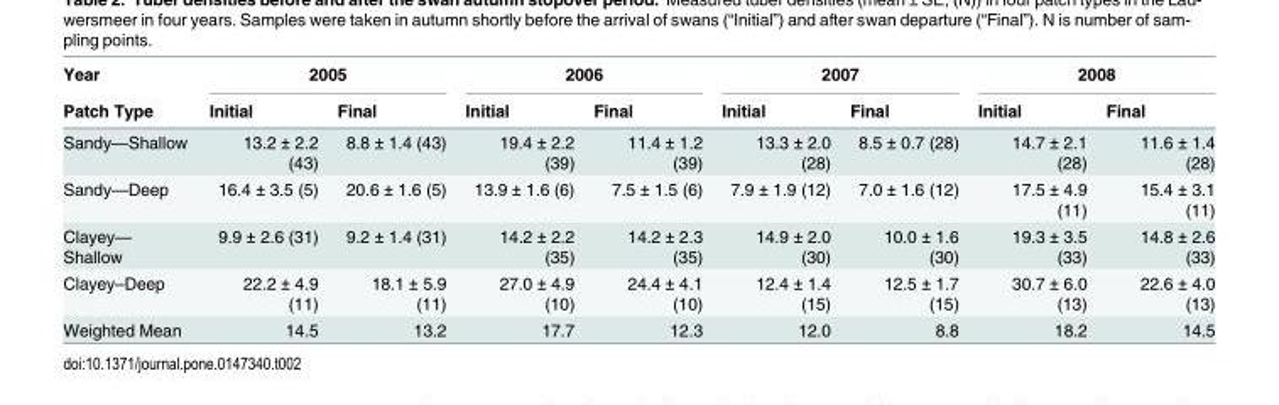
<table><thead><tr><td rowspan="2">Year Patch Type</td><td colspan="2">2005</td><td colspan="2">2006</td><td colspan="2">2007</td><td colspan="2">2008</td></tr><tr><td>Initial</td><td>Final</td><td>Initial</td><td>Final</td><td>Initial</td><td>Final</td><td>Initial</td><td>Final</td></tr></thead><tbody><tr><td>Sandy—Shallow</td><td>13.2 ± 2.2 (43)</td><td>8.8 ± 1.4 (43)</td><td>19.4 ± 2.2 (39)</td><td>11.4 ± 1.2 (39)</td><td>13.3 ± 2.0 (28)</td><td>8.5 ± 0.7 (28)</td><td>14.7 ± 2.1 (28)</td><td>11.6 ± 1.4 (28)</td></tr><tr><td>Sandy—Deep</td><td>16.4 ± 3.5 (5)</td><td>20.6 ± 1.6 (5)</td><td>13.9 ± 1.6 (6)</td><td>7.5 ± 1.5 (6)</td><td>7.9 ± 1.9 (12)</td><td>7.0 ± 1.6 (12)</td><td>17.5 ± 4.9 (11)</td><td>15.4 ± 3.1 (11)</td></tr><tr><td>Clayey— Shallow</td><td>9.9 ± 2.6 (31)</td><td>9.2 ± 1.4 (31)</td><td>14.2 ± 2.2 (35)</td><td>14.2 ± 2.3 (35)</td><td>14.9 ± 2.0 (30)</td><td>10.0 ± 1.6 (30)</td><td>19.3 ± 3.5 (33)</td><td>14.8 ± 2.6 (33)</td></tr><tr><td>Clayey–Deep</td><td>22.2 ± 4.9 (11)</td><td>18.1 ± 5.9 (11)</td><td>27.0 ± 4.9 (10)</td><td>24.4 ± 4.1 (10)</td><td>12.4 ± 1.4 (15)</td><td>12.5 ± 1.7 (15)</td><td>30.7 ± 6.0 (13)</td><td>22.6 ± 4.0 (13)</td></tr><tr><td>Weighted Mean</td><td>14.5</td><td>13.2</td><td>17.7</td><td>12.3</td><td>12.0</td><td>8.8</td><td>18.2</td><td>14.5</td></tr></tbody></table>